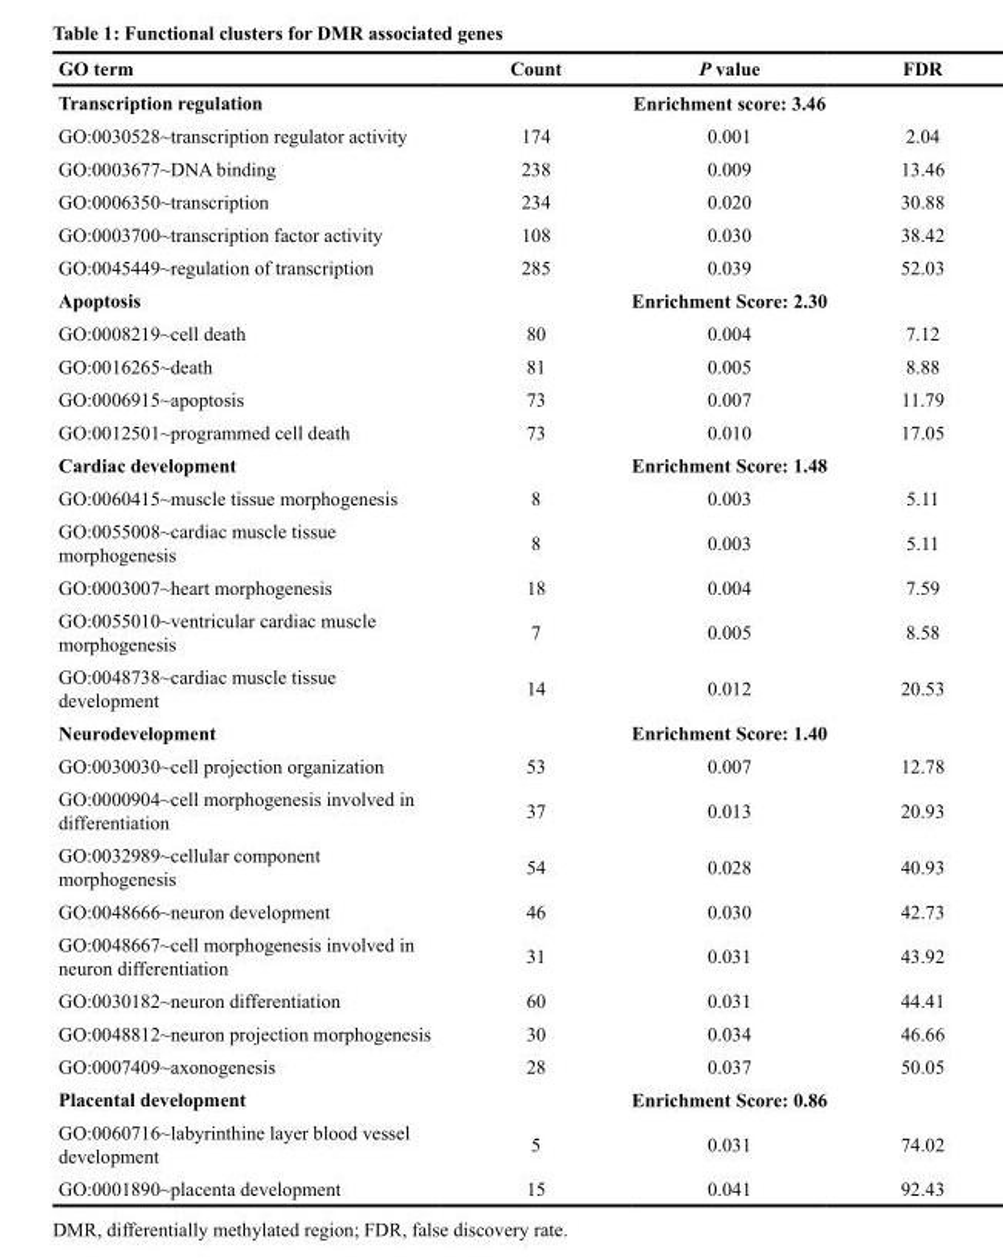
<table><thead><tr><td>GO term</td><td>Count</td><td>P value</td><td>FDR</td></tr></thead><tbody><tr><td>Transcription regulation</td><td colspan="3">Enrichment score: 3.46</td></tr><tr><td>GO:0030528~transcription regulator activity</td><td>174</td><td>0.001</td><td>2.04</td></tr><tr><td>GO:0003677~DNA binding</td><td>238</td><td>0.009</td><td>13.46</td></tr><tr><td>GO:0006350~transcription</td><td>234</td><td>0.020</td><td>30.88</td></tr><tr><td>GO:0003700~transcription factor activity</td><td>108</td><td>0.030</td><td>38.42</td></tr><tr><td>GO:0045449~regulation of transcription</td><td>285</td><td>0.039</td><td>52.03</td></tr><tr><td>Apoptosis</td><td colspan="3">Enrichment Score: 2.30</td></tr><tr><td>GO:0008219~cell death</td><td>80</td><td>0.004</td><td>7.12</td></tr><tr><td>GO:0016265~death</td><td>81</td><td>0.005</td><td>8.88</td></tr><tr><td>GO:0006915~apoptosis</td><td>73</td><td>0.007</td><td>11.79</td></tr><tr><td>GO:0012501~programmed cell death</td><td>73</td><td>0.010</td><td>17.05</td></tr><tr><td>Cardiac development</td><td colspan="3">Enrichment Score: 1.48</td></tr><tr><td>GO:0060415~muscle tissue morphogenesis</td><td>8</td><td>0.003</td><td>5.11</td></tr><tr><td>GO:0055008~cardiac muscle tissue morphogenesis</td><td>8</td><td>0.003</td><td>5.11</td></tr><tr><td>GO:0003007~heart morphogenesis</td><td>18</td><td>0.004</td><td>7.59</td></tr><tr><td>GO:0055010~ventricular cardiac muscle morphogenesis</td><td>7</td><td>0.005</td><td>8.58</td></tr><tr><td>GO:0048738~cardiac muscle tissue development</td><td>14</td><td>0.012</td><td>20.53</td></tr><tr><td>Neurodevelopment</td><td colspan="3">Enrichment Score: 1.40</td></tr><tr><td>GO:0030030~cell projection organization</td><td>53</td><td>0.007</td><td>12.78</td></tr><tr><td>GO:0000904~cell morphogenesis involved in differentiation</td><td>37</td><td>0.013</td><td>20.93</td></tr><tr><td>GO:0032989~cellular component morphogenesis</td><td>54</td><td>0.028</td><td>40.93</td></tr><tr><td>GO:0048666~neuron development</td><td>46</td><td>0.030</td><td>42.73</td></tr><tr><td>GO:0048667~cell morphogenesis involved in neuron differentiation</td><td>31</td><td>0.031</td><td>43.92</td></tr><tr><td>GO:0030182~neuron differentiation</td><td>60</td><td>0.031</td><td>44.41</td></tr><tr><td>GO:0048812~neuron projection morphogenesis</td><td>30</td><td>0.034</td><td>46.66</td></tr><tr><td>GO:0007409~axonogenesis</td><td>28</td><td>0.037</td><td>50.05</td></tr><tr><td>Placental development</td><td colspan="3">Enrichment Score: 0.86</td></tr><tr><td>GO:0060716~labyrinthine layer blood vessel development</td><td>5</td><td>0.031</td><td>74.02</td></tr><tr><td>GO:0001890~placenta development</td><td>15</td><td>0.041</td><td>92.43</td></tr></tbody></table>